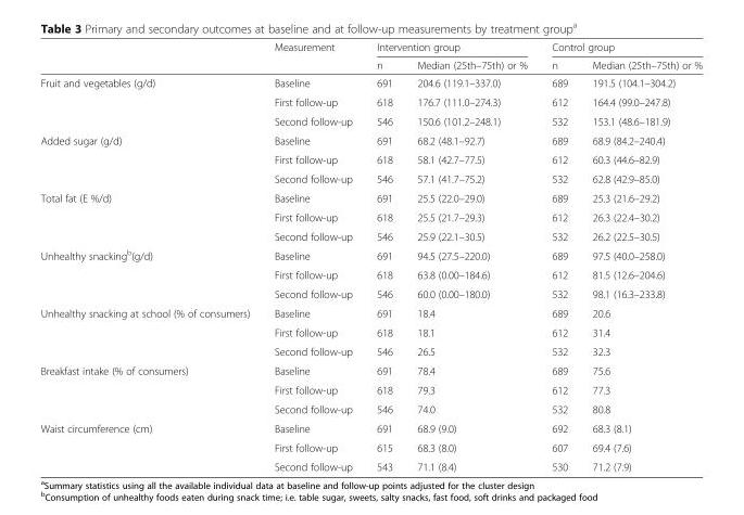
<table><thead><tr><td rowspan="2"></td><td rowspan="2">Measurement</td><td colspan="2">Intervention group</td><td colspan="2">Control group</td></tr><tr><td>n</td><td>Median (25th–75th) or %</td><td>n</td><td>Median (25th–75th) or %</td></tr></thead><tbody><tr><td rowspan="3">Fruit and vegetables (g/d)</td><td>Baseline</td><td>691</td><td>204.6 (119.1–337.0)</td><td>689</td><td>191.5 (104.1–304.2)</td></tr><tr><td>First follow-up</td><td>618</td><td>176.7 (111.0–274.3)</td><td>612</td><td>164.4 (99.0–247.8)</td></tr><tr><td>Second follow-up</td><td>546</td><td>150.6 (101.2–248.1)</td><td>532</td><td>153.1 (48.6–181.9)</td></tr><tr><td rowspan="3">Added sugar (g/d)</td><td>Baseline</td><td>691</td><td>68.2 (48.1–92.7)</td><td>689</td><td>68.9 (84.2–240.4)</td></tr><tr><td>First follow-up</td><td>618</td><td>58.1 (42.7–77.5)</td><td>612</td><td>60.3 (44.6–82.9)</td></tr><tr><td>Second follow-up</td><td>546</td><td>57.1 (41.7–75.2)</td><td>532</td><td>62.8 (42.9–85.0)</td></tr><tr><td rowspan="3">Total fat (E %/d)</td><td>Baseline</td><td>691</td><td>25.5 (22.0–29.0)</td><td>689</td><td>25.3 (21.6–29.2)</td></tr><tr><td>First follow-up</td><td>618</td><td>25.5 (21.7–29.3)</td><td>612</td><td>26.3 (22.4–30.2)</td></tr><tr><td>Second follow-up</td><td>546</td><td>25.9 (22.1–30.5)</td><td>532</td><td>26.2 (22.5–30.5)</td></tr><tr><td rowspan="3">Unhealthy snacking<sup>b</sup>(g/d)</td><td>Baseline</td><td>691</td><td>94.5 (27.5–220.0)</td><td>689</td><td>97.5 (40.0–258.0)</td></tr><tr><td>First follow-up</td><td>618</td><td>63.8 (0.00–184.6)</td><td>612</td><td>81.5 (12.6–204.6)</td></tr><tr><td>Second follow-up</td><td>546</td><td>60.0 (0.00–180.0)</td><td>532</td><td>98.1 (16.3–233.8)</td></tr><tr><td rowspan="3">Unhealthy snacking at school (% of consumers)</td><td>Baseline</td><td>691</td><td>18.4</td><td>689</td><td>20.6</td></tr><tr><td>First follow-up</td><td>618</td><td>18.1</td><td>612</td><td>31.4</td></tr><tr><td>Second follow-up</td><td>546</td><td>26.5</td><td>532</td><td>32.3</td></tr><tr><td rowspan="3">Breakfast intake (% of consumers)</td><td>Baseline</td><td>691</td><td>78.4</td><td>689</td><td>75.6</td></tr><tr><td>First follow-up</td><td>618</td><td>79.3</td><td>612</td><td>77.3</td></tr><tr><td>Second follow-up</td><td>546</td><td>74.0</td><td>532</td><td>80.8</td></tr><tr><td rowspan="3">Waist circumference (cm)</td><td>Baseline</td><td>691</td><td>68.9 (9.0)</td><td>692</td><td>68.3 (8.1)</td></tr><tr><td>First follow-up</td><td>615</td><td>68.3 (8.0)</td><td>607</td><td>69.4 (7.6)</td></tr><tr><td>Second follow-up</td><td>543</td><td>71.1 (8.4)</td><td>530</td><td>71.2 (7.9)</td></tr></tbody></table>